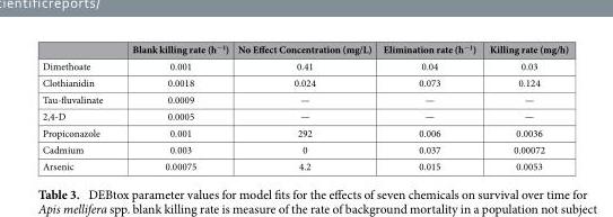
<table><thead><tr><td></td><td>Blank killing rate (h<sup>−1</sup>)</td><td>No Effect Concentration (mg/L)</td><td>Elimination rate (h<sup>−1</sup>)</td><td>Killing rate (mg/h)</td></tr></thead><tbody><tr><td>Dimethoate</td><td>0.001</td><td>0.41</td><td>0.04</td><td>0.03</td></tr><tr><td>Clothianidin</td><td>0.0018</td><td>0.024</td><td>0.073</td><td>0.124</td></tr><tr><td>Tau-fluvalinate</td><td>0.0009</td><td>—</td><td>—</td><td>—</td></tr><tr><td>2,4-D</td><td>0.0005</td><td>—</td><td>—</td><td>—</td></tr><tr><td>Propiconazole</td><td>0.001</td><td>292</td><td>0.006</td><td>0.0036</td></tr><tr><td>Cadmium</td><td>0.003</td><td>0</td><td>0.037</td><td>0.00072</td></tr><tr><td>Arsenic</td><td>0.00075</td><td>4.2</td><td>0.015</td><td>0.0053</td></tr></tbody></table>